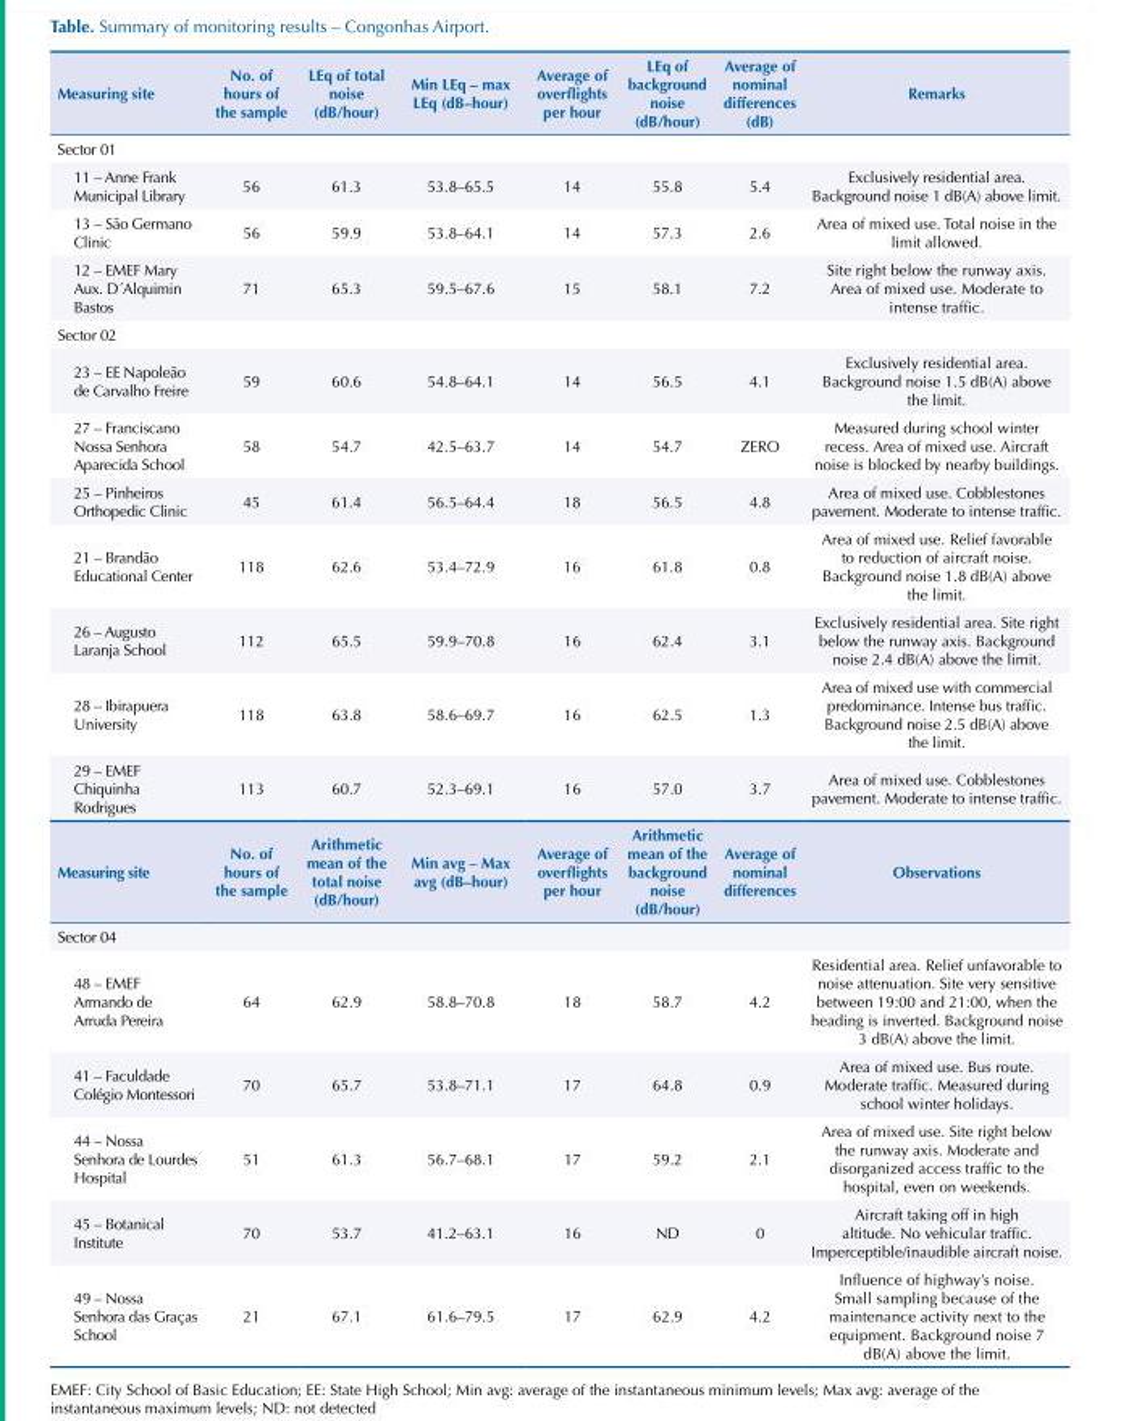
<table><thead><tr><td>Measuring site</td><td>No. of hours of the sample</td><td>LEq of total noise (dB/hour)</td><td>Min LEq – max LEq (dB–hour)</td><td>Average of overflights per hour</td><td>LEq of background noise (dB/hour)</td><td>Average of nominal differences (dB)</td><td>Remarks</td></tr></thead><tbody><tr><td colspan="8">Sector 01</td></tr><tr><td>11 – Anne Frank Municipal Library</td><td>56</td><td>61.3</td><td>53.8–65.5</td><td>14</td><td>55.8</td><td>5.4</td><td>Exclusively residential area. Background noise 1 dB(A) above limit.</td></tr><tr><td>13 – São Germano Clinic</td><td>56</td><td>59.9</td><td>53.8–64.1</td><td>14</td><td>57.3</td><td>2.6</td><td>Area of mixed use. Total noise in the limit allowed.</td></tr><tr><td>12 – EMEF Mary Aux. D´Alquimin Bastos</td><td>71</td><td>65.3</td><td>59.5–67.6</td><td>15</td><td>58.1</td><td>7.2</td><td>Site right below the runway axis. Area of mixed use. Moderate to intense traffic.</td></tr><tr><td colspan="8">Sector 02</td></tr><tr><td>23 – EE Napoleão de Carvalho Freire</td><td>59</td><td>60.6</td><td>54.8–64.1</td><td>14</td><td>56.5</td><td>4.1</td><td>Exclusively residential area. Background noise 1.5 dB(A) above the limit.</td></tr><tr><td>27 – Franciscano Nossa Senhora Aparecida School</td><td>58</td><td>54.7</td><td>42.5–63.7</td><td>14</td><td>54.7</td><td>ZERO</td><td>Measured during school winter recess. Area of mixed use. Aircraft noise is blocked by nearby buildings.</td></tr><tr><td>25 – Pinheiros Orthopedic Clinic</td><td>45</td><td>61.4</td><td>56.5–64.4</td><td>18</td><td>56.5</td><td>4.8</td><td>Area of mixed use. Cobblestones pavement. Moderate to intense traffic.</td></tr><tr><td>21 – Brandão Educational Center</td><td>118</td><td>62.6</td><td>53.4–72.9</td><td>16</td><td>61.8</td><td>0.8</td><td>Area of mixed use. Relief favorable to reduction of aircraft noise. Background noise 1.8 dB(A) above the limit.</td></tr><tr><td>26 – Augusto Laranja School</td><td>112</td><td>65.5</td><td>59.9–70.8</td><td>16</td><td>62.4</td><td>3.1</td><td>Exclusively residential area. Site right below the runway axis. Background noise 2.4 dB(A) above the limit.</td></tr><tr><td>28 – Ibirapuera University</td><td>118</td><td>63.8</td><td>58.6–69.7</td><td>16</td><td>62.5</td><td>1.3</td><td>Area of mixed use with commercial predominance. Intense bus traffic. Background noise 2.5 dB(A) above the limit.</td></tr><tr><td>29 – EMEF Chiquinha Rodrigues</td><td>113</td><td>60.7</td><td>52.3–69.1</td><td>16</td><td>57.0</td><td>3.7</td><td>Area of mixed use. Cobblestones pavement. Moderate to intense traffic.</td></tr><tr><td>Measuring site</td><td>No. of hours of the sample</td><td>Arithmetic mean of the total noise (dB/hour)</td><td>Min avg – Max avg (dB–hour)</td><td>Average of overflights per hour</td><td>Arithmetic mean of the background noise (dB/hour)</td><td>Average of nominal differences</td><td>Observations</td></tr><tr><td colspan="8">Sector 04</td></tr><tr><td>48 – EMEF Armando de Arruda Pereira</td><td>64</td><td>62.9</td><td>58.8–70.8</td><td>18</td><td>58.7</td><td>4.2</td><td>Residential area. Relief unfavorable to noise attenuation. Site very sensitive between 19:00 and 21:00, when the heading is inverted. Background noise 3 dB(A) above the limit.</td></tr><tr><td>41 – Faculdade Colégio Montessori</td><td>70</td><td>65.7</td><td>53.8–71.1</td><td>17</td><td>64.8</td><td>0.9</td><td>Area of mixed use. Bus route. Moderate traffic. Measured during school winter holidays.</td></tr><tr><td>44 – Nossa Senhora de Lourdes Hospital</td><td>51</td><td>61.3</td><td>56.7–68.1</td><td>17</td><td>59.2</td><td>2.1</td><td>Area of mixed use. Site right below the runway axis. Moderate and disorganized access traffic to the hospital, even on weekends.</td></tr><tr><td>45 – Botanical Institute</td><td>70</td><td>53.7</td><td>41.2–63.1</td><td>16</td><td>ND</td><td>0</td><td>Aircraft taking off in high altitude. No vehicular traffic. Imperceptible/inaudible aircraft noise.</td></tr><tr><td>49 – Nossa Senhora das Graças School</td><td>21</td><td>67.1</td><td>61.6–79.5</td><td>17</td><td>62.9</td><td>4.2</td><td>Influence of highway’s noise. Small sampling because of the maintenance activity next to the equipment. Background noise 7 dB(A) above the limit.</td></tr></tbody></table>